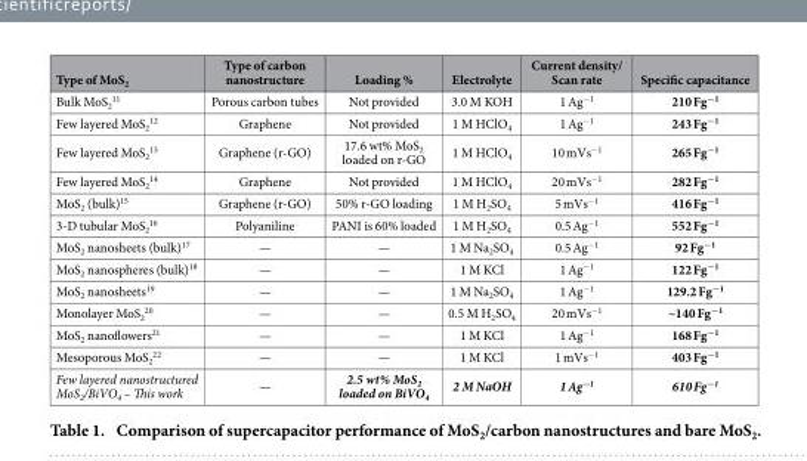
<table><thead><tr><td>Type of MoS<sub>2</sub></td><td>Type of carbon nanostructure</td><td>Loading %</td><td>Electrolyte</td><td>Current density/ Scan rate</td><td>Specific capacitance</td></tr></thead><tbody><tr><td>Bulk MoS<sub>2</sub> <sup>11</sup></td><td>Porous carbon tubes</td><td>Not provided</td><td>3.0 M KOH</td><td>1 Ag<sup>−1</sup></td><td>210 Fg<sup>−1</sup></td></tr><tr><td>Few layered MoS<sub>2</sub> <sup>12</sup></td><td>Graphene</td><td>Not provided</td><td>1 M HClO<sub>4</sub></td><td>1 Ag<sup>−1</sup></td><td>243 Fg<sup>−1</sup></td></tr><tr><td>Few layered MoS<sub>2</sub> <sup>13</sup></td><td>Graphene (r-GO)</td><td>17.6 wt% MoS<sub>2</sub> loaded on r-GO</td><td>1 M HClO<sub>4</sub></td><td>10 mVs<sup>−1</sup></td><td>265 Fg<sup>−1</sup></td></tr><tr><td>Few layered MoS<sub>2</sub> <sup>14</sup></td><td>Graphene</td><td>Not provided</td><td>1 M HClO<sub>4</sub></td><td>20 mVs<sup>−1</sup></td><td>282 Fg<sup>−1</sup></td></tr><tr><td>MoS<sub>2</sub> (bulk)<sup>15</sup></td><td>Graphene (r-GO)</td><td>50% r-GO loading</td><td>1 M H<sub>2</sub>SO<sub>4</sub></td><td>5 mVs<sup>−1</sup></td><td>416 Fg<sup>−1</sup></td></tr><tr><td>3-D tubular MoS<sub>2</sub> <sup>16</sup></td><td>Polyaniline</td><td>PANI is 60% loaded</td><td>1 M H<sub>2</sub>SO<sub>4</sub></td><td>0.5 Ag<sup>−1</sup></td><td>552 Fg<sup>−1</sup></td></tr><tr><td>MoS<sub>2</sub> nanosheets (bulk)<sup>17</sup></td><td>—</td><td>—</td><td>1 M Na<sub>2</sub>SO<sub>4</sub></td><td>0.5 Ag<sup>−1</sup></td><td>92 Fg<sup>−1</sup></td></tr><tr><td>MoS<sub>2</sub> nanospheres (bulk)<sup>18</sup></td><td>—</td><td>—</td><td>1 M KCl</td><td>1 Ag<sup>−1</sup></td><td>122 Fg<sup>−1</sup></td></tr><tr><td>MoS<sub>2</sub> nanosheets<sup>19</sup></td><td>—</td><td>—</td><td>1 M Na<sub>2</sub>SO<sub>4</sub></td><td>1 Ag<sup>−1</sup></td><td>129.2 Fg<sup>−1</sup></td></tr><tr><td>Monolayer MoS<sub>2</sub> <sup>20</sup></td><td>—</td><td>—</td><td>0.5 M H<sub>2</sub>SO<sub>4</sub></td><td>20 mVs<sup>−1</sup></td><td>~140 Fg<sup>−1</sup></td></tr><tr><td>MoS<sub>2</sub> nanoflowers<sup>21</sup></td><td>—</td><td>—</td><td>1 M KCl</td><td>1 Ag<sup>−1</sup></td><td>168 Fg<sup>−1</sup></td></tr><tr><td>Mesoporous MoS<sub>2</sub> <sup>22</sup></td><td>—</td><td>—</td><td>1 M KCl</td><td>1 mVs<sup>−1</sup></td><td>403 Fg<sup>−1</sup></td></tr><tr><td>Few layered nanostructured MoS<sub>2</sub>/BiVO<sub>4</sub> – This work</td><td>—</td><td>2.5 wt% MoS<sub>2</sub> loaded on BiVO<sub>4</sub></td><td>2 M NaOH</td><td>1 Ag<sup>−1</sup></td><td>610 Fg<sup>−1</sup></td></tr></tbody></table>